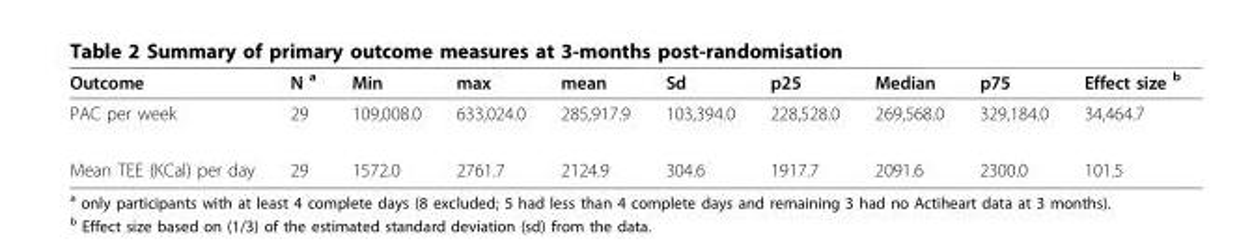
<table><thead><tr><td>Outcome</td><td>N <sup>a</sup></td><td>Min</td><td>max</td><td>mean</td><td>Sd</td><td>p25</td><td>Median</td><td>p75</td><td>Effect size <sup>b</sup></td></tr></thead><tbody><tr><td>PAC per week</td><td>29</td><td>109,008.0</td><td>633,024.0</td><td>285,917.9</td><td>103,394.0</td><td>228,528.0</td><td>269,568.0</td><td>329,184.0</td><td>34,464.7</td></tr><tr><td>Mean TEE (KCal) per day</td><td>29</td><td>1572.0</td><td>2761.7</td><td>2124.9</td><td>304.6</td><td>1917.7</td><td>2091.6</td><td>2300.0</td><td>101.5</td></tr></tbody></table>